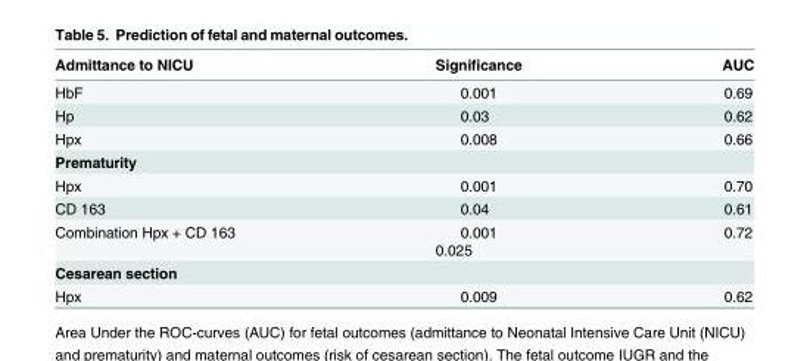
<table><thead><tr><td>Admittance to NICU</td><td>Significance</td><td>AUC</td></tr></thead><tbody><tr><td>HbF</td><td>0.001</td><td>0.69</td></tr><tr><td>Hp</td><td>0.03</td><td>0.62</td></tr><tr><td>Hpx</td><td>0.008</td><td>0.66</td></tr><tr><td colspan="3">Prematurity</td></tr><tr><td>Hpx</td><td>0.001</td><td>0.70</td></tr><tr><td>CD 163</td><td>0.04</td><td>0.61</td></tr><tr><td>Combination Hpx + CD 163</td><td>0.001 0.025</td><td>0.72</td></tr><tr><td colspan="3">Cesarean section</td></tr><tr><td>Hpx</td><td>0.009</td><td>0.62</td></tr></tbody></table>